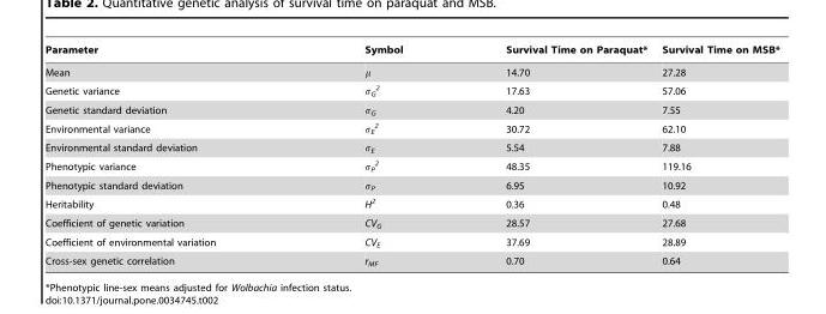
<table><thead><tr><td>Parameter</td><td>Symbol</td><td>Survival Time on Paraquat*</td><td>Survival Time on MSB*</td></tr></thead><tbody><tr><td>Mean</td><td>μ</td><td>14.70</td><td>27.28</td></tr><tr><td>Genetic variance</td><td>σ<sub>G</sub> <sup>2</sup></td><td>17.63</td><td>57.06</td></tr><tr><td>Genetic standard deviation</td><td>σ<sub>G</sub></td><td>4.20</td><td>7.55</td></tr><tr><td>Environmental variance</td><td>σ<sub>E</sub> <sup>2</sup></td><td>30.72</td><td>62.10</td></tr><tr><td>Environmental standard deviation</td><td>σ<sub>E</sub></td><td>5.54</td><td>7.88</td></tr><tr><td>Phenotypic variance</td><td>σ<sub>P</sub> <sup>2</sup></td><td>48.35</td><td>119.16</td></tr><tr><td>Phenotypic standard deviation</td><td>σ<sub>P</sub></td><td>6.95</td><td>10.92</td></tr><tr><td>Heritability</td><td>H<sup>2</sup></td><td>0.36</td><td>0.48</td></tr><tr><td>Coefficient of genetic variation</td><td>CV<sub>G</sub></td><td>28.57</td><td>27.68</td></tr><tr><td>Coefficient of environmental variation</td><td>CV<sub>E</sub></td><td>37.69</td><td>28.89</td></tr><tr><td>Cross-sex genetic correlation</td><td>r<sub>MF</sub></td><td>0.70</td><td>0.64</td></tr></tbody></table>